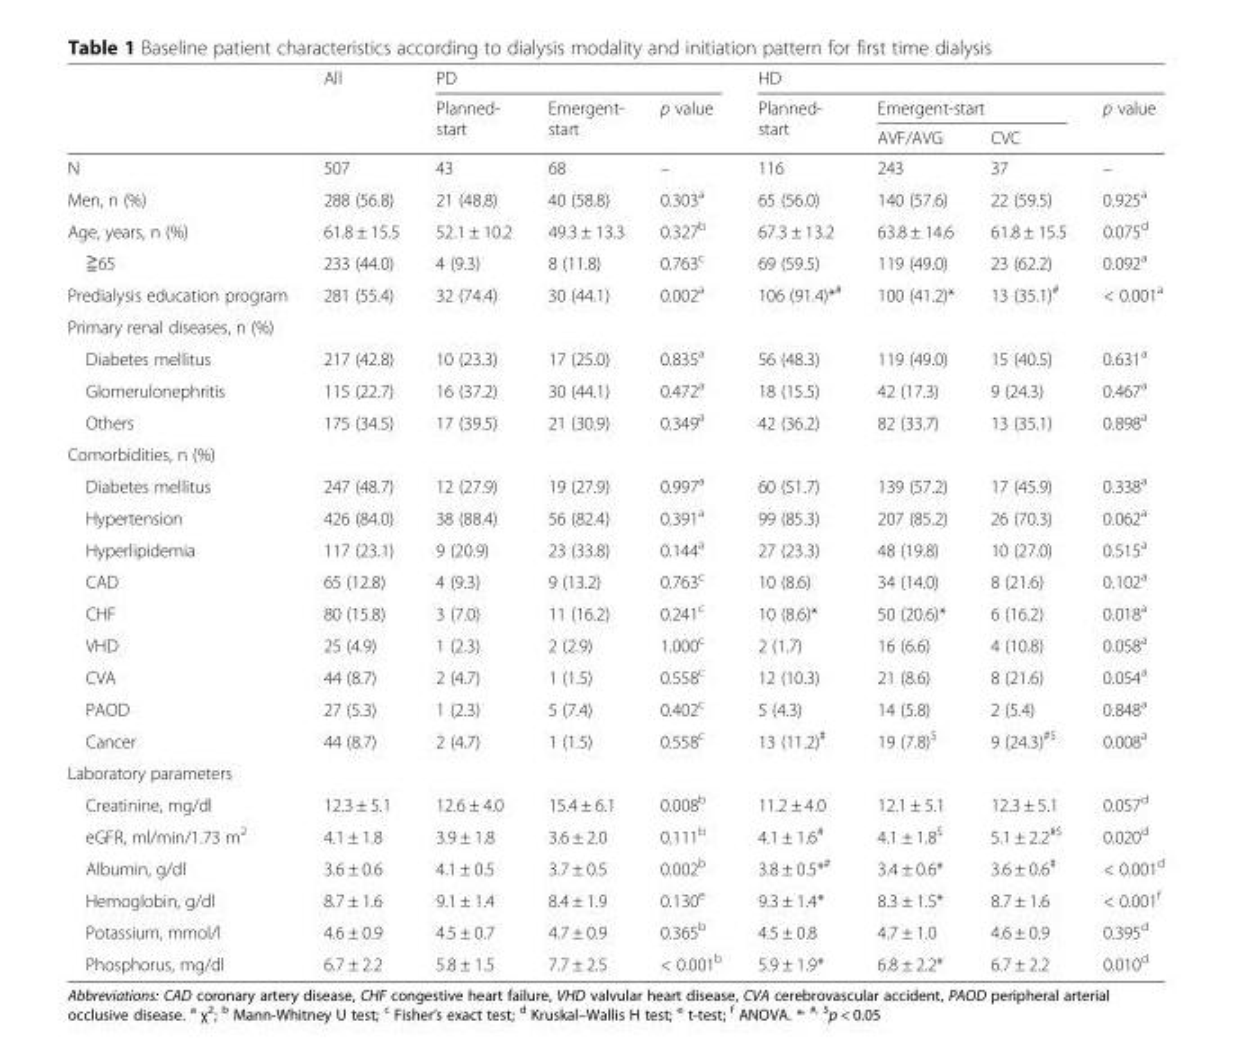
<table><thead><tr><td rowspan="3"></td><td rowspan="3">All</td><td colspan="3">PD</td><td colspan="4">HD</td></tr><tr><td rowspan="2">Planned- start</td><td rowspan="2">Emergent- start</td><td rowspan="2">p value</td><td rowspan="2">Planned- start</td><td colspan="2">Emergent-start</td><td rowspan="2">p value</td></tr><tr><td>AVF/AVG</td><td>CVC</td></tr></thead><tbody><tr><td>N</td><td>507</td><td>43</td><td>68</td><td>–</td><td>116</td><td>243</td><td>37</td><td>–</td></tr><tr><td>Men, n (%)</td><td>288 (56.8)</td><td>21 (48.8)</td><td>40 (58.8)</td><td>0.303<sup>a</sup></td><td>65 (56.0)</td><td>140 (57.6)</td><td>22 (59.5)</td><td>0.925<sup>a</sup></td></tr><tr><td>Age, years, n (%)</td><td>61.8 ± 15.5</td><td>52.1 ± 10.2</td><td>49.3 ± 13.3</td><td>0.327<sup>b</sup></td><td>67.3 ± 13.2</td><td>63.8 ± 14.6</td><td>61.8 ± 15.5</td><td>0.075<sup>d</sup></td></tr><tr><td>≧65</td><td>233 (44.0)</td><td>4 (9.3)</td><td>8 (11.8)</td><td>0.763<sup>c</sup></td><td>69 (59.5)</td><td>119 (49.0)</td><td>23 (62.2)</td><td>0.092<sup>a</sup></td></tr><tr><td>Predialysis education program</td><td>281 (55.4)</td><td>32 (74.4)</td><td>30 (44.1)</td><td>0.002<sup>a</sup></td><td>106 (91.4)*<sup>#</sup></td><td>100 (41.2)*</td><td>13 (35.1)<sup>#</sup></td><td>&lt; 0.001<sup>a</sup></td></tr><tr><td colspan="9">Primary renal diseases, n (%)</td></tr><tr><td>Diabetes mellitus</td><td>217 (42.8)</td><td>10 (23.3)</td><td>17 (25.0)</td><td>0.835<sup>a</sup></td><td>56 (48.3)</td><td>119 (49.0)</td><td>15 (40.5)</td><td>0.631<sup>a</sup></td></tr><tr><td>Glomerulonephritis</td><td>115 (22.7)</td><td>16 (37.2)</td><td>30 (44.1)</td><td>0.472<sup>a</sup></td><td>18 (15.5)</td><td>42 (17.3)</td><td>9 (24.3)</td><td>0.467<sup>a</sup></td></tr><tr><td>Others</td><td>175 (34.5)</td><td>17 (39.5)</td><td>21 (30.9)</td><td>0.349<sup>a</sup></td><td>42 (36.2)</td><td>82 (33.7)</td><td>13 (35.1)</td><td>0.898<sup>a</sup></td></tr><tr><td colspan="9">Comorbidities, n (%)</td></tr><tr><td>Diabetes mellitus</td><td>247 (48.7)</td><td>12 (27.9)</td><td>19 (27.9)</td><td>0.997<sup>a</sup></td><td>60 (51.7)</td><td>139 (57.2)</td><td>17 (45.9)</td><td>0.338<sup>a</sup></td></tr><tr><td>Hypertension</td><td>426 (84.0)</td><td>38 (88.4)</td><td>56 (82.4)</td><td>0.391<sup>a</sup></td><td>99 (85.3)</td><td>207 (85.2)</td><td>26 (70.3)</td><td>0.062<sup>a</sup></td></tr><tr><td>Hyperlipidemia</td><td>117 (23.1)</td><td>9 (20.9)</td><td>23 (33.8)</td><td>0.144<sup>a</sup></td><td>27 (23.3)</td><td>48 (19.8)</td><td>10 (27.0)</td><td>0.515<sup>a</sup></td></tr><tr><td>CAD</td><td>65 (12.8)</td><td>4 (9.3)</td><td>9 (13.2)</td><td>0.763<sup>c</sup></td><td>10 (8.6)</td><td>34 (14.0)</td><td>8 (21.6)</td><td>0.102<sup>a</sup></td></tr><tr><td>CHF</td><td>80 (15.8)</td><td>3 (7.0)</td><td>11 (16.2)</td><td>0.241<sup>c</sup></td><td>10 (8.6)*</td><td>50 (20.6)*</td><td>6 (16.2)</td><td>0.018<sup>a</sup></td></tr><tr><td>VHD</td><td>25 (4.9)</td><td>1 (2.3)</td><td>2 (2.9)</td><td>1.000<sup>c</sup></td><td>2 (1.7)</td><td>16 (6.6)</td><td>4 (10.8)</td><td>0.058<sup>a</sup></td></tr><tr><td>CVA</td><td>44 (8.7)</td><td>2 (4.7)</td><td>1 (1.5)</td><td>0.558<sup>c</sup></td><td>12 (10.3)</td><td>21 (8.6)</td><td>8 (21.6)</td><td>0.054<sup>a</sup></td></tr><tr><td>PAOD</td><td>27 (5.3)</td><td>1 (2.3)</td><td>5 (7.4)</td><td>0.402<sup>c</sup></td><td>5 (4.3)</td><td>14 (5.8)</td><td>2 (5.4)</td><td>0.848<sup>a</sup></td></tr><tr><td>Cancer</td><td>44 (8.7)</td><td>2 (4.7)</td><td>1 (1.5)</td><td>0.558<sup>c</sup></td><td>13 (11.2)<sup>#</sup></td><td>19 (7.8)<sup>$</sup></td><td>9 (24.3)<sup>#$</sup></td><td>0.008<sup>a</sup></td></tr><tr><td colspan="9">Laboratory parameters</td></tr><tr><td>Creatinine, mg/dl</td><td>12.3 ± 5.1</td><td>12.6 ± 4.0</td><td>15.4 ± 6.1</td><td>0.008<sup>b</sup></td><td>11.2 ± 4.0</td><td>12.1 ± 5.1</td><td>12.3 ± 5.1</td><td>0.057<sup>d</sup></td></tr><tr><td>eGFR, ml/min/1.73 m<sup>2</sup></td><td>4.1 ± 1.8</td><td>3.9 ± 1.8</td><td>3.6 ± 2.0</td><td>0.111<sup>b</sup></td><td>4.1 ± 1.6<sup>#</sup></td><td>4.1 ± 1.8<sup>$</sup></td><td>5.1 ± 2.2<sup>#$</sup></td><td>0.020<sup>d</sup></td></tr><tr><td>Albumin, g/dl</td><td>3.6 ± 0.6</td><td>4.1 ± 0.5</td><td>3.7 ± 0.5</td><td>0.002<sup>b</sup></td><td>3.8 ± 0.5*<sup>#</sup></td><td>3.4 ± 0.6*</td><td>3.6 ± 0.6<sup>#</sup></td><td>&lt; 0.001<sup>d</sup></td></tr><tr><td>Hemoglobin, g/dl</td><td>8.7 ± 1.6</td><td>9.1 ± 1.4</td><td>8.4 ± 1.9</td><td>0.130<sup>e</sup></td><td>9.3 ± 1.4*</td><td>8.3 ± 1.5*</td><td>8.7 ± 1.6</td><td>&lt; 0.001<sup>f</sup></td></tr><tr><td>Potassium, mmol/l</td><td>4.6 ± 0.9</td><td>4.5 ± 0.7</td><td>4.7 ± 0.9</td><td>0.365<sup>b</sup></td><td>4.5 ± 0.8</td><td>4.7 ± 1.0</td><td>4.6 ± 0.9</td><td>0.395<sup>d</sup></td></tr><tr><td>Phosphorus, mg/dl</td><td>6.7 ± 2.2</td><td>5.8 ± 1.5</td><td>7.7 ± 2.5</td><td>&lt; 0.001<sup>b</sup></td><td>5.9 ± 1.9*</td><td>6.8 ± 2.2*</td><td>6.7 ± 2.2</td><td>0.010<sup>d</sup></td></tr></tbody></table>